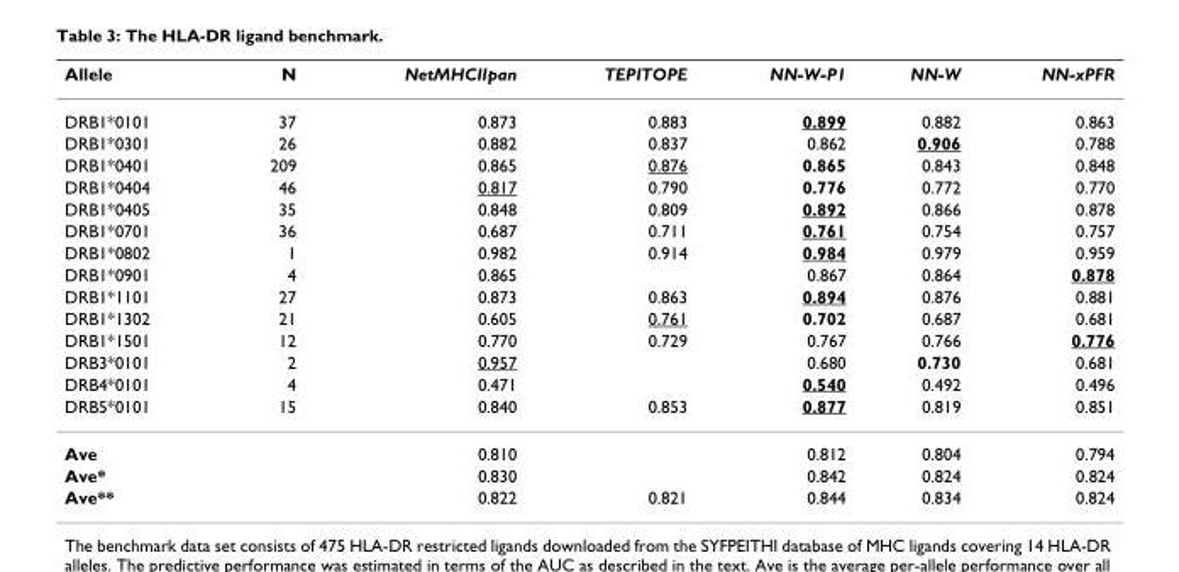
<table><thead><tr><td>Allele</td><td>N</td><td>NetMHCIIpan</td><td>TEPITOPE</td><td>NN-W-P1</td><td>NN-W</td><td>NN-xPFR</td></tr></thead><tbody><tr><td>DRB1*0101</td><td>37</td><td>0.873</td><td>0.883</td><td>0.899</td><td>0.882</td><td>0.863</td></tr><tr><td>DRB1*0301</td><td>26</td><td>0.882</td><td>0.837</td><td>0.862</td><td>0.906</td><td>0.788</td></tr><tr><td>DRB1*0401</td><td>209</td><td>0.865</td><td>0.876</td><td>0.865</td><td>0.843</td><td>0.848</td></tr><tr><td>DRB1*0404</td><td>46</td><td>0.817</td><td>0.790</td><td>0.776</td><td>0.772</td><td>0.770</td></tr><tr><td>DRB1*0405</td><td>35</td><td>0.848</td><td>0.809</td><td>0.892</td><td>0.866</td><td>0.878</td></tr><tr><td>DRB1*0701</td><td>36</td><td>0.687</td><td>0.711</td><td>0.761</td><td>0.754</td><td>0.757</td></tr><tr><td>DRB1*0802</td><td>1</td><td>0.982</td><td>0.914</td><td>0.984</td><td>0.979</td><td>0.959</td></tr><tr><td>DRB1*0901</td><td>4</td><td>0.865</td><td></td><td>0.867</td><td>0.864</td><td>0.878</td></tr><tr><td>DRB1*1101</td><td>27</td><td>0.873</td><td>0.863</td><td>0.894</td><td>0.876</td><td>0.881</td></tr><tr><td>DRB1*1302</td><td>21</td><td>0.605</td><td>0.761</td><td>0.702</td><td>0.687</td><td>0.681</td></tr><tr><td>DRB1*1501</td><td>12</td><td>0.770</td><td>0.729</td><td>0.767</td><td>0.766</td><td>0.776</td></tr><tr><td>DRB3*0101</td><td>2</td><td>0.957</td><td></td><td>0.680</td><td>0.730</td><td>0.681</td></tr><tr><td>DRB4*0101</td><td>4</td><td>0.471</td><td></td><td>0.540</td><td>0.492</td><td>0.496</td></tr><tr><td>DRB5*0101</td><td>15</td><td>0.840</td><td>0.853</td><td>0.877</td><td>0.819</td><td>0.851</td></tr><tr><td>Ave</td><td></td><td>0.810</td><td></td><td>0.812</td><td>0.804</td><td>0.794</td></tr><tr><td>Ave*</td><td></td><td>0.830</td><td></td><td>0.842</td><td>0.824</td><td>0.824</td></tr><tr><td>Ave**</td><td></td><td>0.822</td><td>0.821</td><td>0.844</td><td>0.834</td><td>0.824</td></tr></tbody></table>